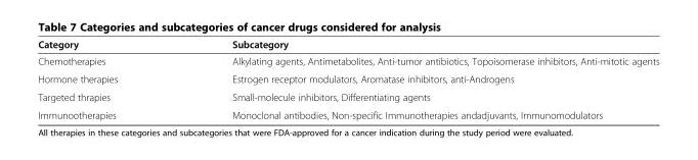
<table><thead><tr><td>Category</td><td>Subcategory</td></tr></thead><tbody><tr><td>Chemotherapies</td><td>Alkylating agents, Antimetabolites, Anti-tumor antibiotics, Topoisomerase inhibitors, Anti-mitotic agents</td></tr><tr><td>Hormone therapies</td><td>Estrogen receptor modulators, Aromatase inhibitors, anti-Androgens</td></tr><tr><td>Targeted thrapies</td><td>Small-molecule inhibitors, Differentiating agents</td></tr><tr><td>Immunootherapies</td><td>Monoclonal antibodies, Non-specific Immunotherapies andadjuvants, Immunomodulators</td></tr></tbody></table>